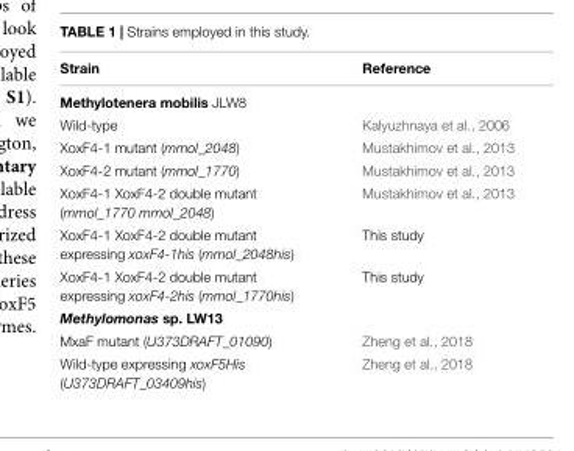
<table><thead><tr><td>Strain</td><td>Reference</td></tr></thead><tbody><tr><td colspan="2">Methylotenera mobilis JLW8</td></tr><tr><td>Wild-type</td><td>Kalyuzhnaya et al., 2006</td></tr><tr><td>XoxF4-1 mutant (mmol_2048)</td><td>Mustakhimov et al., 2013</td></tr><tr><td>XoxF4-2 mutant (mmol_1770)</td><td>Mustakhimov et al., 2013</td></tr><tr><td>XoxF4-1 XoxF4-2 double mutant (mmol_1770 mmol_2048)</td><td>Mustakhimov et al., 2013</td></tr><tr><td>XoxF4-1 XoxF4-2 double mutant expressing xoxF4-1his (mmol_2048his)</td><td>This study</td></tr><tr><td>XoxF4-1 XoxF4-2 double mutant expressing xoxF4-2his (mmol_1770his)</td><td>This study</td></tr><tr><td colspan="2">Methylomonas sp. LW13</td></tr><tr><td>MxaF mutant (U373DRAFT_01090)</td><td>Zheng et al., 2018</td></tr><tr><td>Wild-type expressing xoxF5His (U373DRAFT_03409his)</td><td>Zheng et al., 2018</td></tr></tbody></table>